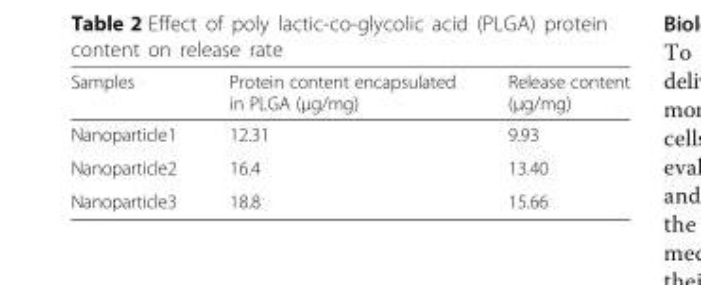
<table><thead><tr><td>Samples</td><td>Protein content encapsulated in PLGA (μg/mg)</td><td>Release content (μg/mg)</td></tr></thead><tbody><tr><td>Nanoparticle1</td><td>12.31</td><td>9.93</td></tr><tr><td>Nanoparticle2</td><td>16.4</td><td>13.40</td></tr><tr><td>Nanoparticle3</td><td>18.8</td><td>15.66</td></tr></tbody></table>